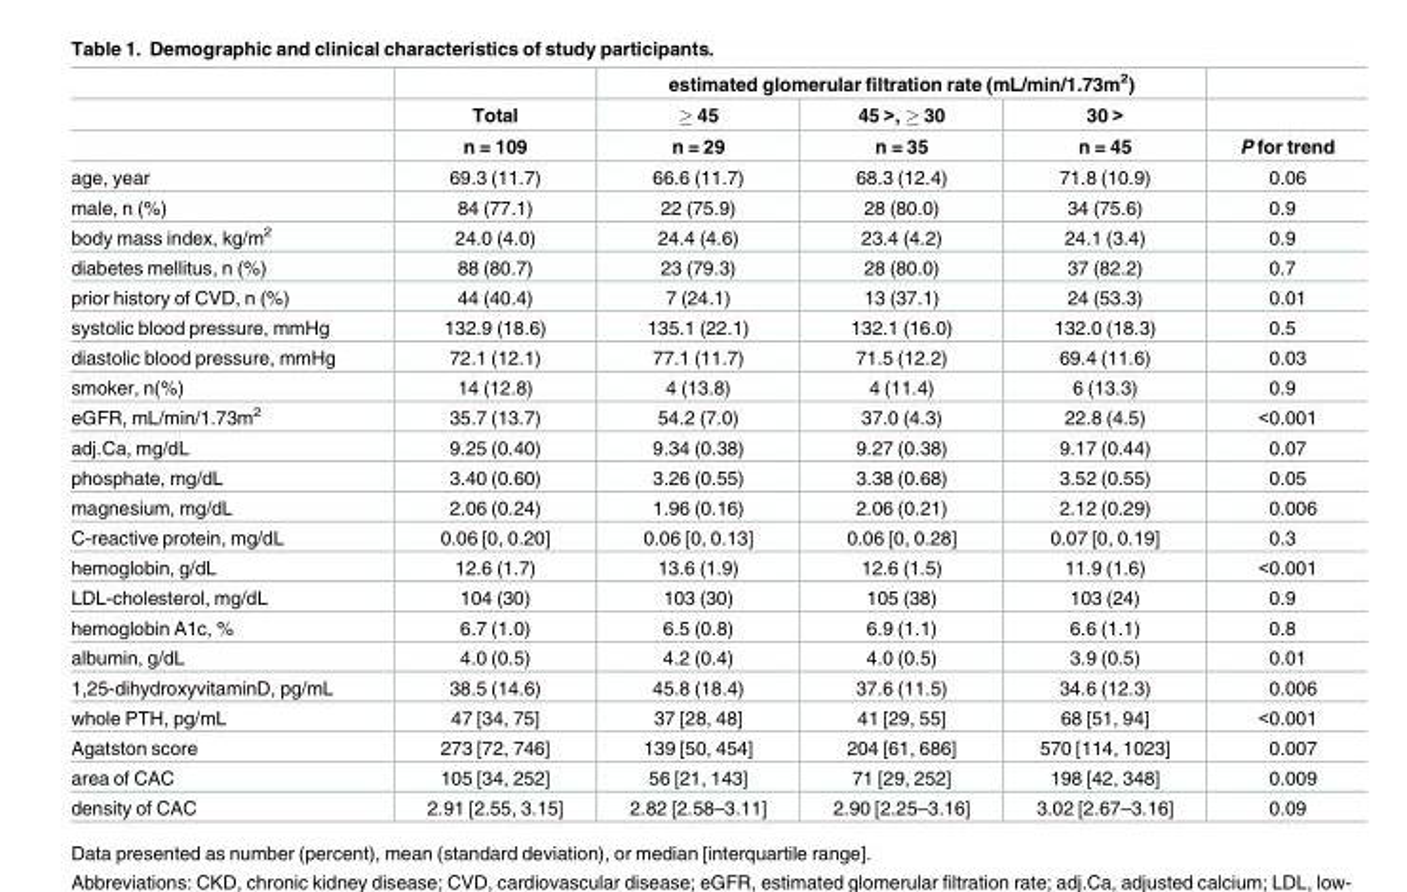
<table><thead><tr><td rowspan="3"></td><td rowspan="3">Total n = 109</td><td colspan="3">estimated glomerular filtration rate (mL/min/1.73m<sup>2</sup>)</td><td rowspan="3">P for trend</td></tr><tr><td rowspan="2">≥ 45 n = 29</td><td rowspan="2">45 &gt;, ≥ 30 n = 35</td><td rowspan="2">30 &gt; n = 45</td></tr><tr></tr></thead><tbody><tr><td>age, year</td><td>69.3 (11.7)</td><td>66.6 (11.7)</td><td>68.3 (12.4)</td><td>71.8 (10.9)</td><td>0.06</td></tr><tr><td>male, n (%)</td><td>84 (77.1)</td><td>22 (75.9)</td><td>28 (80.0)</td><td>34 (75.6)</td><td>0.9</td></tr><tr><td>body mass index, kg/m<sup>2</sup></td><td>24.0 (4.0)</td><td>24.4 (4.6)</td><td>23.4 (4.2)</td><td>24.1 (3.4)</td><td>0.9</td></tr><tr><td>diabetes mellitus, n (%)</td><td>88 (80.7)</td><td>23 (79.3)</td><td>28 (80.0)</td><td>37 (82.2)</td><td>0.7</td></tr><tr><td>prior history of CVD, n (%)</td><td>44 (40.4)</td><td>7 (24.1)</td><td>13 (37.1)</td><td>24 (53.3)</td><td>0.01</td></tr><tr><td>systolic blood pressure, mmHg</td><td>132.9 (18.6)</td><td>135.1 (22.1)</td><td>132.1 (16.0)</td><td>132.0 (18.3)</td><td>0.5</td></tr><tr><td>diastolic blood pressure, mmHg</td><td>72.1 (12.1)</td><td>77.1 (11.7)</td><td>71.5 (12.2)</td><td>69.4 (11.6)</td><td>0.03</td></tr><tr><td>smoker, n(%)</td><td>14 (12.8)</td><td>4 (13.8)</td><td>4 (11.4)</td><td>6 (13.3)</td><td>0.9</td></tr><tr><td>eGFR, mL/min/1.73m<sup>2</sup></td><td>35.7 (13.7)</td><td>54.2 (7.0)</td><td>37.0 (4.3)</td><td>22.8 (4.5)</td><td>&lt;0.001</td></tr><tr><td>adj.Ca, mg/dL</td><td>9.25 (0.40)</td><td>9.34 (0.38)</td><td>9.27 (0.38)</td><td>9.17 (0.44)</td><td>0.07</td></tr><tr><td>phosphate, mg/dL</td><td>3.40 (0.60)</td><td>3.26 (0.55)</td><td>3.38 (0.68)</td><td>3.52 (0.55)</td><td>0.05</td></tr><tr><td>magnesium, mg/dL</td><td>2.06 (0.24)</td><td>1.96 (0.16)</td><td>2.06 (0.21)</td><td>2.12 (0.29)</td><td>0.006</td></tr><tr><td>C-reactive protein, mg/dL</td><td>0.06 [0, 0.20]</td><td>0.06 [0, 0.13]</td><td>0.06 [0, 0.28]</td><td>0.07 [0, 0.19]</td><td>0.3</td></tr><tr><td>hemoglobin, g/dL</td><td>12.6 (1.7)</td><td>13.6 (1.9)</td><td>12.6 (1.5)</td><td>11.9 (1.6)</td><td>&lt;0.001</td></tr><tr><td>LDL-cholesterol, mg/dL</td><td>104 (30)</td><td>103 (30)</td><td>105 (38)</td><td>103 (24)</td><td>0.9</td></tr><tr><td>hemoglobin A1c, %</td><td>6.7 (1.0)</td><td>6.5 (0.8)</td><td>6.9 (1.1)</td><td>6.6 (1.1)</td><td>0.8</td></tr><tr><td>albumin, g/dL</td><td>4.0 (0.5)</td><td>4.2 (0.4)</td><td>4.0 (0.5)</td><td>3.9 (0.5)</td><td>0.01</td></tr><tr><td>1,25-dihydroxyvitaminD, pg/mL</td><td>38.5 (14.6)</td><td>45.8 (18.4)</td><td>37.6 (11.5)</td><td>34.6 (12.3)</td><td>0.006</td></tr><tr><td>whole PTH, pg/mL</td><td>47 [34, 75]</td><td>37 [28, 48]</td><td>41 [29, 55]</td><td>68 [51, 94]</td><td>&lt;0.001</td></tr><tr><td>Agatston score</td><td>273 [72, 746]</td><td>139 [50, 454]</td><td>204 [61, 686]</td><td>570 [114, 1023]</td><td>0.007</td></tr><tr><td>area of CAC</td><td>105 [34, 252]</td><td>56 [21, 143]</td><td>71 [29, 252]</td><td>198 [42, 348]</td><td>0.009</td></tr><tr><td>density of CAC</td><td>2.91 [2.55, 3.15]</td><td>2.82 [2.58–3.11]</td><td>2.90 [2.25–3.16]</td><td>3.02 [2.67–3.16]</td><td>0.09</td></tr></tbody></table>